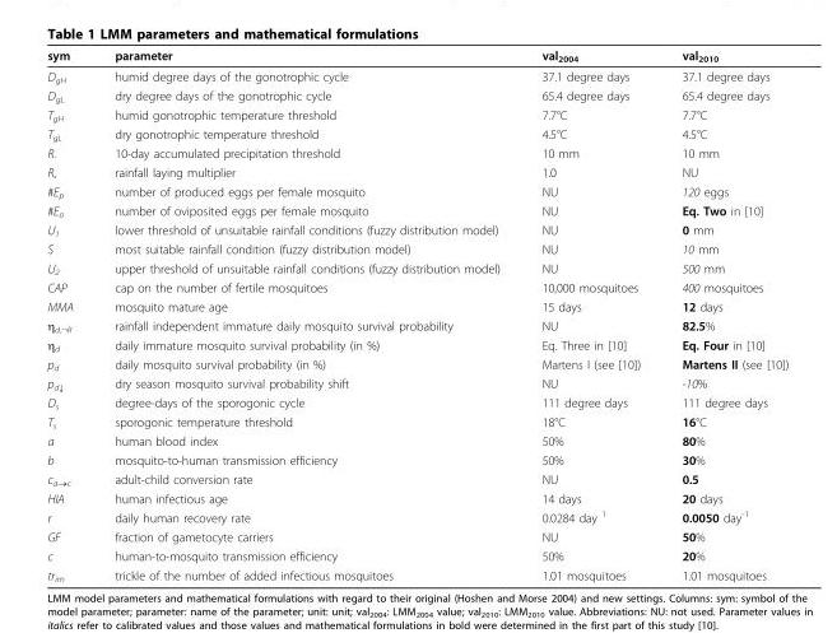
<table><thead><tr><td>sym</td><td>parameter</td><td>val<sub>2004</sub></td><td>val<sub>2010</sub></td></tr></thead><tbody><tr><td>D<sub>gH</sub></td><td>humid degree days of the gonotrophic cycle</td><td>37.1 degree days</td><td>37.1 degree days</td></tr><tr><td>D<sub>gL</sub></td><td>dry degree days of the gonotrophic cycle</td><td>65.4 degree days</td><td>65.4 degree days</td></tr><tr><td>T<sub>gH</sub></td><td>humid gonotrophic temperature threshold</td><td>7.7°C</td><td>7.7°C</td></tr><tr><td>T<sub>gL</sub></td><td>dry gonotrophic temperature threshold</td><td>4.5°C</td><td>4.5°C</td></tr><tr><td>R<sub>-</sub></td><td>10-day accumulated precipitation threshold</td><td>10 mm</td><td>10 mm</td></tr><tr><td>R<sub>•</sub></td><td>rainfall laying multiplier</td><td>1.0</td><td>NU</td></tr><tr><td>#E<sub>p</sub></td><td>number of produced eggs per female mosquito</td><td>NU</td><td>120 eggs</td></tr><tr><td>#E<sub>o</sub></td><td>number of oviposited eggs per female mosquito</td><td>NU</td><td>Eq. Two in [10]</td></tr><tr><td>U<sub>1</sub></td><td>lower threshold of unsuitable rainfall conditions (fuzzy distribution model)</td><td>NU</td><td>0 mm</td></tr><tr><td>S</td><td>most suitable rainfall condition (fuzzy distribution model)</td><td>NU</td><td>10 mm</td></tr><tr><td>U<sub>2</sub></td><td>upper threshold of unsuitable rainfall conditions (fuzzy distribution model)</td><td>NU</td><td>500 mm</td></tr><tr><td>CAP</td><td>cap on the number of fertile mosquitoes</td><td>10,000 mosquitoes</td><td>400 mosquitoes</td></tr><tr><td>MMA</td><td>mosquito mature age</td><td>15 days</td><td>12 days</td></tr><tr><td>η<sub>d,¬R</sub></td><td>rainfall independent immature daily mosquito survival probability</td><td>NU</td><td>82.5%</td></tr><tr><td>η<sub>d</sub></td><td>daily immature mosquito survival probability (in %)</td><td>Eq. Three in [10]</td><td>Eq. Four in [10]</td></tr><tr><td>p<sub>d</sub></td><td>daily mosquito survival probability (in %)</td><td>Martens I (see [10])</td><td>Martens II (see [10])</td></tr><tr><td>p<sub>d↓</sub></td><td>dry season mosquito survival probability shift</td><td>NU</td><td>-10%</td></tr><tr><td>D<sub>s</sub></td><td>degree-days of the sporogonic cycle</td><td>111 degree days</td><td>111 degree days</td></tr><tr><td>T<sub>s</sub></td><td>sporogonic temperature threshold</td><td>18°C</td><td>16°C</td></tr><tr><td>a</td><td>human blood index</td><td>50%</td><td>80%</td></tr><tr><td>b</td><td>mosquito-to-human transmission efficiency</td><td>50%</td><td>30%</td></tr><tr><td>c<sub>a→c</sub></td><td>adult-child conversion rate</td><td>NU</td><td>0.5</td></tr><tr><td>HIA</td><td>human infectious age</td><td>14 days</td><td>20 days</td></tr><tr><td>r</td><td>daily human recovery rate</td><td>0.0284 day <sup>1</sup></td><td>0.0050 day<sup>-1</sup></td></tr><tr><td>GF</td><td>fraction of gametocyte carriers</td><td>NU</td><td>50%</td></tr><tr><td>c</td><td>human-to-mosquito transmission efficiency</td><td>50%</td><td>20%</td></tr><tr><td>tr<sub>im</sub></td><td>trickle of the number of added infectious mosquitoes</td><td>1.01 mosquitoes</td><td>1.01 mosquitoes</td></tr></tbody></table>